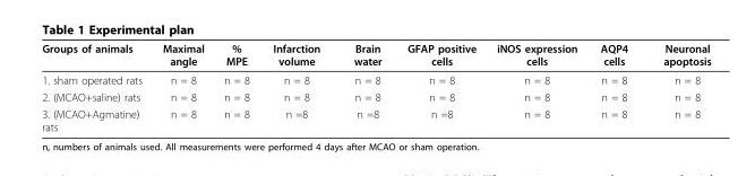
<table><thead><tr><td>Groups of animals</td><td>Maximal angle</td><td>% MPE</td><td>Infarction volume</td><td>Brain water</td><td>GFAP positive cells</td><td>iNOS expression cells</td><td>AQP4 cells</td><td>Neuronal apoptosis</td></tr></thead><tbody><tr><td>1. sham operated rats</td><td>n = 8</td><td>n = 8</td><td>n = 8</td><td>n = 8</td><td>n = 8</td><td>n = 8</td><td>n = 8</td><td>n = 8</td></tr><tr><td>2. (MCAO+saline) rats</td><td>n = 8</td><td>n = 8</td><td>n = 8</td><td>n = 8</td><td>n = 8</td><td>n = 8</td><td>n = 8</td><td>n = 8</td></tr><tr><td>3. (MCAO+Agmatine) rats</td><td>n = 8</td><td>n = 8</td><td>n =8</td><td>n =8</td><td>n =8</td><td>n = 8</td><td>n = 8</td><td>n = 8</td></tr></tbody></table>